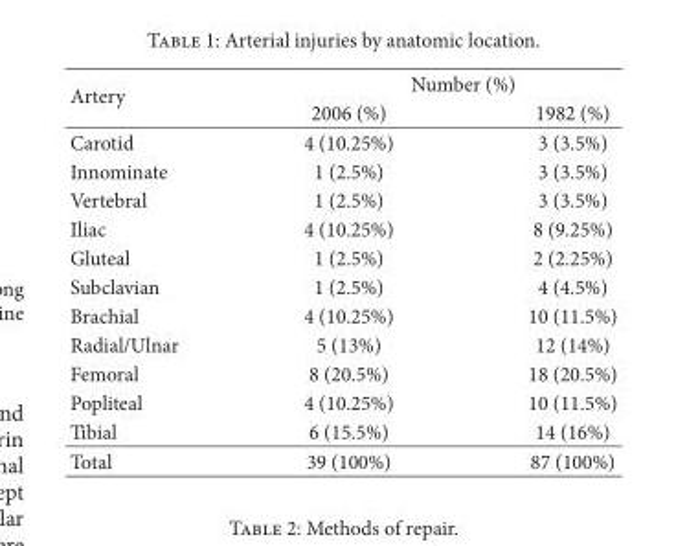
<table><thead><tr><td rowspan="2">Artery</td><td colspan="2">Number (%)</td></tr><tr><td>2006 (%)</td><td>1982 (%)</td></tr></thead><tbody><tr><td>Carotid</td><td>4 (10.25%)</td><td>3 (3.5%)</td></tr><tr><td>Innominate</td><td>1 (2.5%)</td><td>3 (3.5%)</td></tr><tr><td>Vertebral</td><td>1 (2.5%)</td><td>3 (3.5%)</td></tr><tr><td>Iliac</td><td>4 (10.25%)</td><td>8 (9.25%)</td></tr><tr><td>Gluteal</td><td>1 (2.5%)</td><td>2 (2.25%)</td></tr><tr><td>Subclavian</td><td>1 (2.5%)</td><td>4 (4.5%)</td></tr><tr><td>Brachial</td><td>4 (10.25%)</td><td>10 (11.5%)</td></tr><tr><td>Radial/Ulnar</td><td>5 (13%)</td><td>12 (14%)</td></tr><tr><td>Femoral</td><td>8 (20.5%)</td><td>18 (20.5%)</td></tr><tr><td>Popliteal</td><td>4 (10.25%)</td><td>10 (11.5%)</td></tr><tr><td>Tibial</td><td>6 (15.5%)</td><td>14 (16%)</td></tr><tr><td>Total</td><td>39 (100%)</td><td>87 (100%)</td></tr></tbody></table>